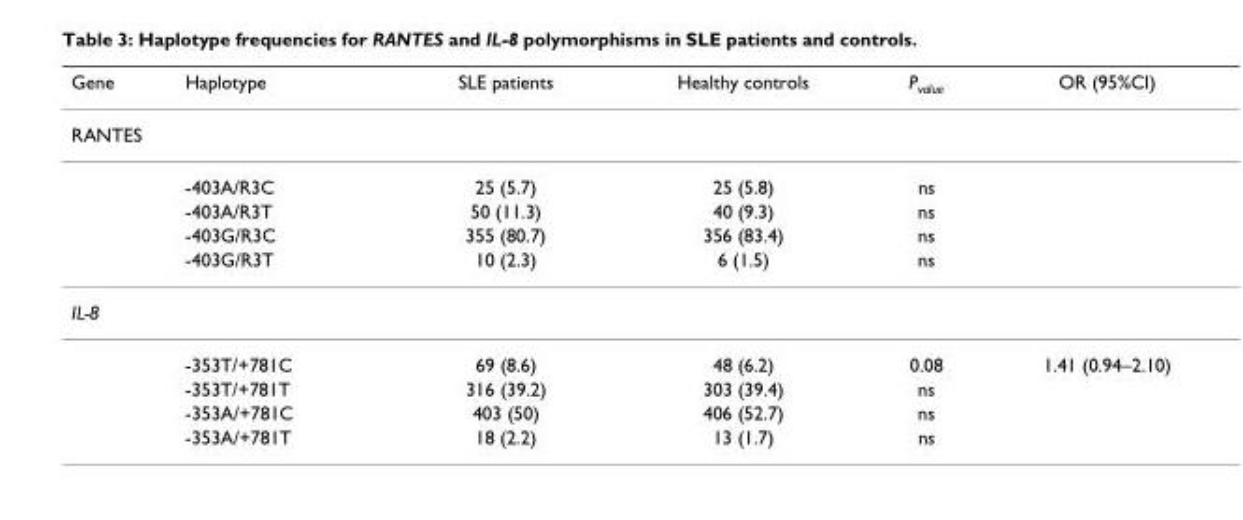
<table><thead><tr><td>Gene</td><td>Haplotype</td><td>SLE patients</td><td>Healthy controls</td><td>P<sub>value</sub></td><td>OR (95%CI)</td></tr></thead><tbody><tr><td colspan="6">RANTES</td></tr><tr><td></td><td>-403A/R3C</td><td>25 (5.7)</td><td>25 (5.8)</td><td>ns</td><td></td></tr><tr><td></td><td>-403A/R3T</td><td>50 (11.3)</td><td>40 (9.3)</td><td>ns</td><td></td></tr><tr><td></td><td>-403G/R3C</td><td>355 (80.7)</td><td>356 (83.4)</td><td>ns</td><td></td></tr><tr><td></td><td>-403G/R3T</td><td>10 (2.3)</td><td>6 (1.5)</td><td>ns</td><td></td></tr><tr><td colspan="6">IL-8</td></tr><tr><td></td><td>-353T/+781C</td><td>69 (8.6)</td><td>48 (6.2)</td><td>0.08</td><td>1.41 (0.94–2.10)</td></tr><tr><td></td><td>-353T/+781T</td><td>316 (39.2)</td><td>303 (39.4)</td><td>ns</td><td></td></tr><tr><td></td><td>-353A/+781C</td><td>403 (50)</td><td>406 (52.7)</td><td>ns</td><td></td></tr><tr><td></td><td>-353A/+781T</td><td>18 (2.2)</td><td>13 (1.7)</td><td>ns</td><td></td></tr></tbody></table>